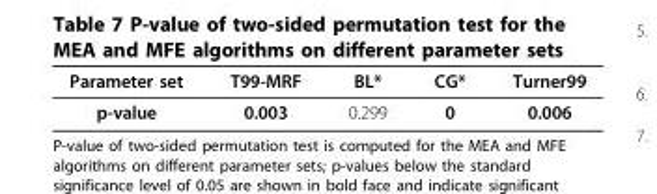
<table><thead><tr><td>Parameter set</td><td>T99-MRF</td><td>BL*</td><td>CG*</td><td>Turner99</td></tr></thead><tbody><tr><td>p-value</td><td>0.003</td><td>0.299</td><td>0</td><td>0.006</td></tr></tbody></table>